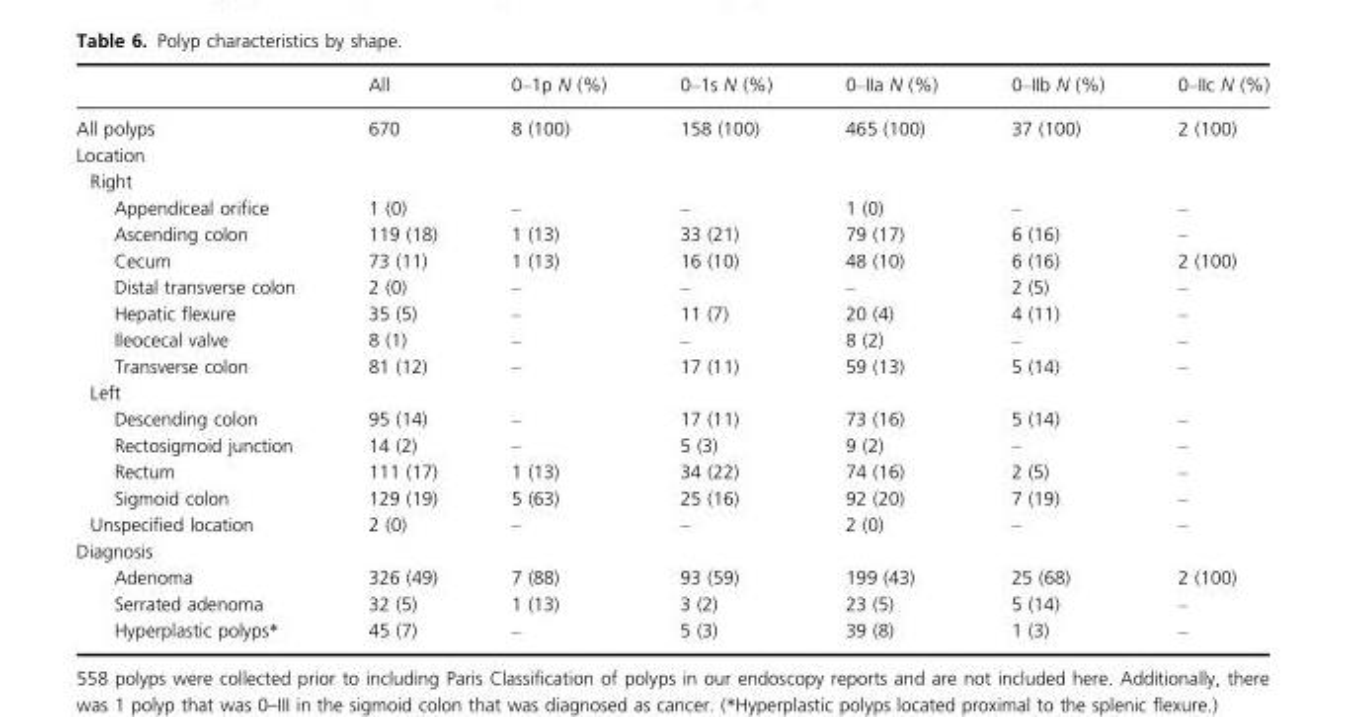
<table><thead><tr><td></td><td>All</td><td>0–1p N (%)</td><td>0–1s N (%)</td><td>0–IIa N (%)</td><td>0–IIb N (%)</td><td>0–IIc N (%)</td></tr></thead><tbody><tr><td>All polyps</td><td>670</td><td>8 (100)</td><td>158 (100)</td><td>465 (100)</td><td>37 (100)</td><td>2 (100)</td></tr><tr><td colspan="7">Location</td></tr><tr><td colspan="7">Right</td></tr><tr><td>Appendiceal orifice</td><td>1 (0)</td><td>–</td><td>–</td><td>1 (0)</td><td>–</td><td>–</td></tr><tr><td>Ascending colon</td><td>119 (18)</td><td>1 (13)</td><td>33 (21)</td><td>79 (17)</td><td>6 (16)</td><td>–</td></tr><tr><td>Cecum</td><td>73 (11)</td><td>1 (13)</td><td>16 (10)</td><td>48 (10)</td><td>6 (16)</td><td>2 (100)</td></tr><tr><td>Distal transverse colon</td><td>2 (0)</td><td>–</td><td>–</td><td>–</td><td>2 (5)</td><td>–</td></tr><tr><td>Hepatic flexure</td><td>35 (5)</td><td>–</td><td>11 (7)</td><td>20 (4)</td><td>4 (11)</td><td>–</td></tr><tr><td>Ileocecal valve</td><td>8 (1)</td><td>–</td><td>–</td><td>8 (2)</td><td>–</td><td>–</td></tr><tr><td>Transverse colon</td><td>81 (12)</td><td>–</td><td>17 (11)</td><td>59 (13)</td><td>5 (14)</td><td>–</td></tr><tr><td colspan="7">Left</td></tr><tr><td>Descending colon</td><td>95 (14)</td><td>–</td><td>17 (11)</td><td>73 (16)</td><td>5 (14)</td><td>–</td></tr><tr><td>Rectosigmoid junction</td><td>14 (2)</td><td>–</td><td>5 (3)</td><td>9 (2)</td><td>–</td><td>–</td></tr><tr><td>Rectum</td><td>111 (17)</td><td>1 (13)</td><td>34 (22)</td><td>74 (16)</td><td>2 (5)</td><td>–</td></tr><tr><td>Sigmoid colon</td><td>129 (19)</td><td>5 (63)</td><td>25 (16)</td><td>92 (20)</td><td>7 (19)</td><td>–</td></tr><tr><td>Unspecified location</td><td>2 (0)</td><td>–</td><td>–</td><td>2 (0)</td><td>–</td><td>–</td></tr><tr><td colspan="7">Diagnosis</td></tr><tr><td>Adenoma</td><td>326 (49)</td><td>7 (88)</td><td>93 (59)</td><td>199 (43)</td><td>25 (68)</td><td>2 (100)</td></tr><tr><td>Serrated adenoma</td><td>32 (5)</td><td>1 (13)</td><td>3 (2)</td><td>23 (5)</td><td>5 (14)</td><td>–</td></tr><tr><td>Hyperplastic polyps*</td><td>45 (7)</td><td>–</td><td>5 (3)</td><td>39 (8)</td><td>1 (3)</td><td>–</td></tr></tbody></table>